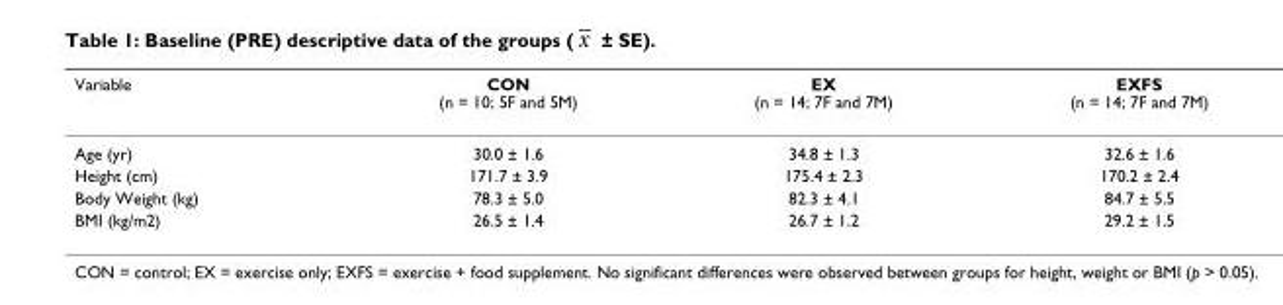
<table><thead><tr><td>Variable</td><td>CON (n = 10; 5F and 5M)</td><td>EX (n = 14; 7F and 7M)</td><td>EXFS (n = 14; 7F and 7M)</td></tr></thead><tbody><tr><td>Age (yr)</td><td>30.0 ± 1.6</td><td>34.8 ± 1.3</td><td>32.6 ± 1.6</td></tr><tr><td>Height (cm)</td><td>171.7 ± 3.9</td><td>175.4 ± 2.3</td><td>170.2 ± 2.4</td></tr><tr><td>Body Weight (kg)</td><td>78.3 ± 5.0</td><td>82.3 ± 4.1</td><td>84.7 ± 5.5</td></tr><tr><td>BMI (kg/m2)</td><td>26.5 ± 1.4</td><td>26.7 ± 1.2</td><td>29.2 ± 1.5</td></tr></tbody></table>